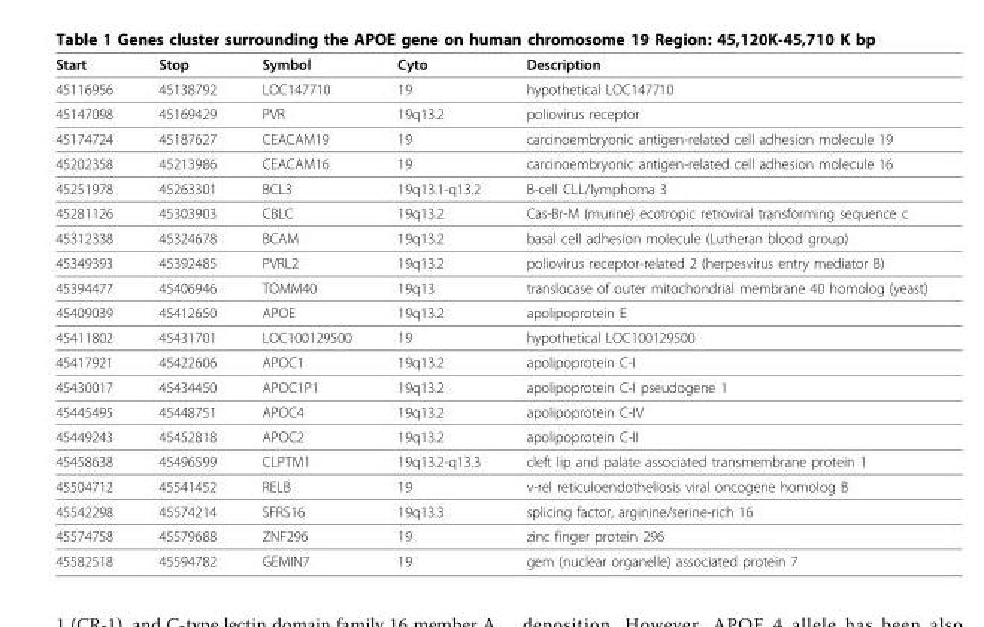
<table><thead><tr><td>Start</td><td>Stop</td><td>Symbol</td><td>Cyto</td><td>Description</td></tr></thead><tbody><tr><td>45116956</td><td>45138792</td><td>LOC147710</td><td>19</td><td>hypothetical LOC147710</td></tr><tr><td>45147098</td><td>45169429</td><td>PVR</td><td>19q13.2</td><td>poliovirus receptor</td></tr><tr><td>45174724</td><td>45187627</td><td>CEACAM19</td><td>19</td><td>carcinoembryonic antigen-related cell adhesion molecule 19</td></tr><tr><td>45202358</td><td>45213986</td><td>CEACAM16</td><td>19</td><td>carcinoembryonic antigen-related cell adhesion molecule 16</td></tr><tr><td>45251978</td><td>45263301</td><td>BCL3</td><td>19q13.1-q13.2</td><td>B-cell CLL/lymphoma 3</td></tr><tr><td>45281126</td><td>45303903</td><td>CBLC</td><td>19q13.2</td><td>Cas-Br-M (murine) ecotropic retroviral transforming sequence c</td></tr><tr><td>45312338</td><td>45324678</td><td>BCAM</td><td>19q13.2</td><td>basal cell adhesion molecule (Lutheran blood group)</td></tr><tr><td>45349393</td><td>45392485</td><td>PVRL2</td><td>19q13.2</td><td>poliovirus receptor-related 2 (herpesvirus entry mediator B)</td></tr><tr><td>45394477</td><td>45406946</td><td>TOMM40</td><td>19q13</td><td>translocase of outer mitochondrial membrane 40 homolog (yeast)</td></tr><tr><td>45409039</td><td>45412650</td><td>APOE</td><td>19q13.2</td><td>apolipoprotein E</td></tr><tr><td>45411802</td><td>45431701</td><td>LOC100129500</td><td>19</td><td>hypothetical LOC100129500</td></tr><tr><td>45417921</td><td>45422606</td><td>APOC1</td><td>19q13.2</td><td>apolipoprotein C-I</td></tr><tr><td>45430017</td><td>45434450</td><td>APOC1P1</td><td>19q13.2</td><td>apolipoprotein C-I pseudogene 1</td></tr><tr><td>45445495</td><td>45448751</td><td>APOC4</td><td>19q13.2</td><td>apolipoprotein C-IV</td></tr><tr><td>45449243</td><td>45452818</td><td>APOC2</td><td>19q13.2</td><td>apolipoprotein C-II</td></tr><tr><td>45458638</td><td>45496599</td><td>CLPTM1</td><td>19q13.2-q13.3</td><td>cleft lip and palate associated transmembrane protein 1</td></tr><tr><td>45504712</td><td>45541452</td><td>RELB</td><td>19</td><td>v-rel reticuloendotheliosis viral oncogene homolog B</td></tr><tr><td>45542298</td><td>45574214</td><td>SFRS16</td><td>19q13.3</td><td>splicing factor, arginine/serine-rich 16</td></tr><tr><td>45574758</td><td>45579688</td><td>ZNF296</td><td>19</td><td>zinc finger protein 296</td></tr><tr><td>45582518</td><td>45594782</td><td>GEMIN7</td><td>19</td><td>gem (nuclear organelle) associated protein 7</td></tr></tbody></table>